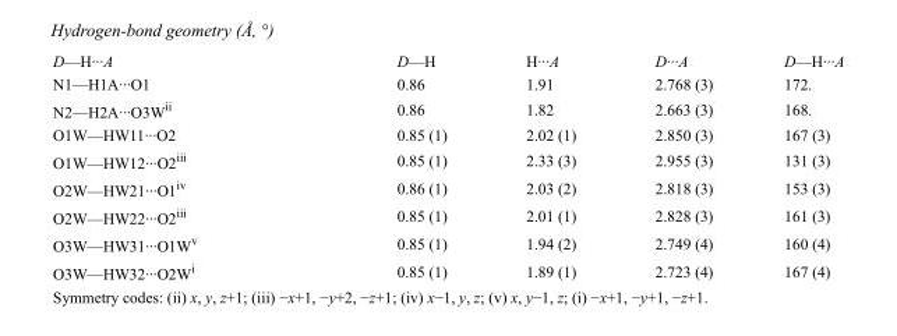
<table><tbody><tr><td>D—H···A</td><td>D—H</td><td>H···A</td><td>D···A</td><td>D—H···A</td></tr><tr><td>N1—H1A···O1</td><td>0.86</td><td>1.91</td><td>2.768 (3)</td><td>172.</td></tr><tr><td>N2—H2A···O3W<sup>ii</sup></td><td>0.86</td><td>1.82</td><td>2.663 (3)</td><td>168.</td></tr><tr><td>O1W—HW11···O2</td><td>0.85 (1)</td><td>2.02 (1)</td><td>2.850 (3)</td><td>167 (3)</td></tr><tr><td>O1W—HW12···O2<sup>iii</sup></td><td>0.85 (1)</td><td>2.33 (3)</td><td>2.955 (3)</td><td>131 (3)</td></tr><tr><td>O2W—HW21···O1<sup>iv</sup></td><td>0.86 (1)</td><td>2.03 (2)</td><td>2.818 (3)</td><td>153 (3)</td></tr><tr><td>O2W—HW22···O2<sup>iii</sup></td><td>0.85 (1)</td><td>2.01 (1)</td><td>2.828 (3)</td><td>161 (3)</td></tr><tr><td>O3W—HW31···O1W<sup>v</sup></td><td>0.85 (1)</td><td>1.94 (2)</td><td>2.749 (4)</td><td>160 (4)</td></tr><tr><td>O3W—HW32···O2W<sup>i</sup></td><td>0.85 (1)</td><td>1.89 (1)</td><td>2.723 (4)</td><td>167 (4)</td></tr></tbody></table>